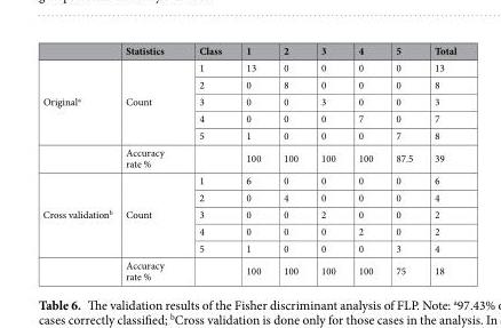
<table><thead><tr><td></td><td>Statistics</td><td>Class</td><td>1</td><td>2</td><td>3</td><td>4</td><td>5</td><td>Total</td></tr></thead><tbody><tr><td rowspan="6">Original<sup>a</sup></td><td rowspan="5">Count</td><td>1</td><td>13</td><td>0</td><td>0</td><td>0</td><td>0</td><td>13</td></tr><tr><td>2</td><td>0</td><td>8</td><td>0</td><td>0</td><td>0</td><td>8</td></tr><tr><td>3</td><td>0</td><td>0</td><td>3</td><td>0</td><td>0</td><td>3</td></tr><tr><td>4</td><td>0</td><td>0</td><td>0</td><td>7</td><td>0</td><td>7</td></tr><tr><td>5</td><td>1</td><td>0</td><td>0</td><td>0</td><td>7</td><td>8</td></tr><tr><td>Accuracy rate %</td><td></td><td>100</td><td>100</td><td>100</td><td>100</td><td>87.5</td><td>39</td></tr><tr><td rowspan="6">Cross validation<sup>b</sup></td><td rowspan="5">Count</td><td>1</td><td>6</td><td>0</td><td>0</td><td>0</td><td>0</td><td>6</td></tr><tr><td>2</td><td>0</td><td>4</td><td>0</td><td>0</td><td>0</td><td>4</td></tr><tr><td>3</td><td>0</td><td>0</td><td>2</td><td>0</td><td>0</td><td>2</td></tr><tr><td>4</td><td>0</td><td>0</td><td>0</td><td>2</td><td>0</td><td>2</td></tr><tr><td>5</td><td>1</td><td>0</td><td>0</td><td>0</td><td>3</td><td>4</td></tr><tr><td>Accuracy rate %</td><td></td><td>100</td><td>100</td><td>100</td><td>100</td><td>75</td><td>18</td></tr></tbody></table>